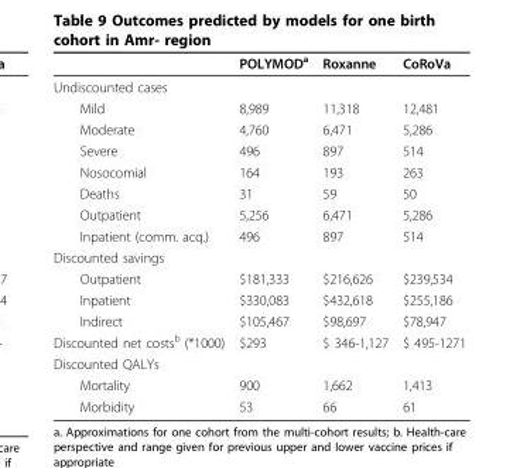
<table><thead><tr><td></td><td>POLYMOD<sup>a</sup></td><td>Roxanne</td><td>CoRoVa</td></tr></thead><tbody><tr><td colspan="4">Undiscounted cases</td></tr><tr><td>Mild</td><td>8,989</td><td>11,318</td><td>12,481</td></tr><tr><td>Moderate</td><td>4,760</td><td>6,471</td><td>5,286</td></tr><tr><td>Severe</td><td>496</td><td>897</td><td>514</td></tr><tr><td>Nosocomial</td><td>164</td><td>193</td><td>263</td></tr><tr><td>Deaths</td><td>31</td><td>59</td><td>50</td></tr><tr><td>Outpatient</td><td>5,256</td><td>6,471</td><td>5,286</td></tr><tr><td>Inpatient (comm. acq.)</td><td>496</td><td>897</td><td>514</td></tr><tr><td colspan="4">Discounted savings</td></tr><tr><td>Outpatient</td><td>$181,333</td><td>$216,626</td><td>$239,534</td></tr><tr><td>Inpatient</td><td>$330,083</td><td>$432,618</td><td>$255,186</td></tr><tr><td>Indirect</td><td>$105,467</td><td>$98,697</td><td>$78,947</td></tr><tr><td>Discounted net costs<sup>b</sup> (*1000)</td><td>$293</td><td>$ 346-1,127</td><td>$ 495-1271</td></tr><tr><td colspan="4">Discounted QALYs</td></tr><tr><td>Mortality</td><td>900</td><td>1,662</td><td>1,413</td></tr><tr><td>Morbidity</td><td>53</td><td>66</td><td>61</td></tr></tbody></table>